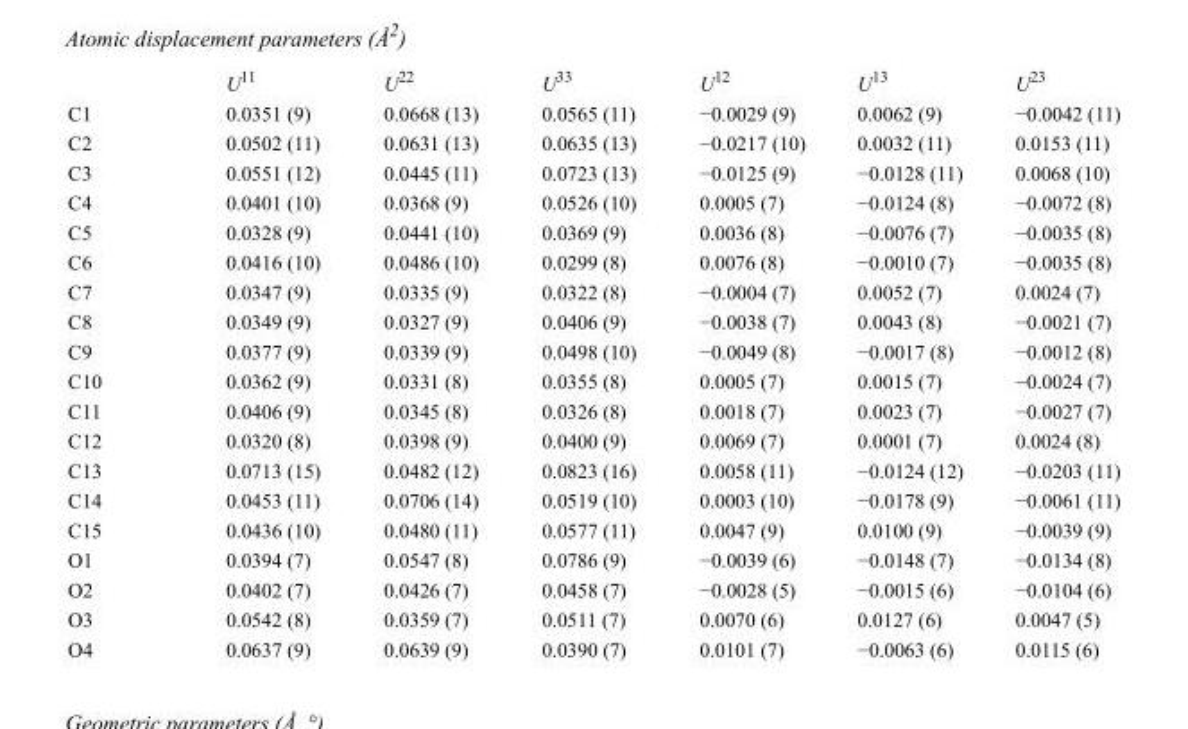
<table><thead><tr><td></td><td>U<sup>11</sup></td><td>U<sup>22</sup></td><td>U<sup>33</sup></td><td>U<sup>12</sup></td><td>U<sup>13</sup></td><td>U<sup>23</sup></td></tr></thead><tbody><tr><td>C1</td><td>0.0351 (9)</td><td>0.0668 (13)</td><td>0.0565 (11)</td><td>−0.0029 (9)</td><td>0.0062 (9)</td><td>−0.0042 (11)</td></tr><tr><td>C2</td><td>0.0502 (11)</td><td>0.0631 (13)</td><td>0.0635 (13)</td><td>−0.0217 (10)</td><td>0.0032 (11)</td><td>0.0153 (11)</td></tr><tr><td>C3</td><td>0.0551 (12)</td><td>0.0445 (11)</td><td>0.0723 (13)</td><td>−0.0125 (9)</td><td>−0.0128 (11)</td><td>0.0068 (10)</td></tr><tr><td>C4</td><td>0.0401 (10)</td><td>0.0368 (9)</td><td>0.0526 (10)</td><td>0.0005 (7)</td><td>−0.0124 (8)</td><td>−0.0072 (8)</td></tr><tr><td>C5</td><td>0.0328 (9)</td><td>0.0441 (10)</td><td>0.0369 (9)</td><td>0.0036 (8)</td><td>−0.0076 (7)</td><td>−0.0035 (8)</td></tr><tr><td>C6</td><td>0.0416 (10)</td><td>0.0486 (10)</td><td>0.0299 (8)</td><td>0.0076 (8)</td><td>−0.0010 (7)</td><td>−0.0035 (8)</td></tr><tr><td>C7</td><td>0.0347 (9)</td><td>0.0335 (9)</td><td>0.0322 (8)</td><td>−0.0004 (7)</td><td>0.0052 (7)</td><td>0.0024 (7)</td></tr><tr><td>C8</td><td>0.0349 (9)</td><td>0.0327 (9)</td><td>0.0406 (9)</td><td>−0.0038 (7)</td><td>0.0043 (8)</td><td>−0.0021 (7)</td></tr><tr><td>C9</td><td>0.0377 (9)</td><td>0.0339 (9)</td><td>0.0498 (10)</td><td>−0.0049 (8)</td><td>−0.0017 (8)</td><td>−0.0012 (8)</td></tr><tr><td>C10</td><td>0.0362 (9)</td><td>0.0331 (8)</td><td>0.0355 (8)</td><td>0.0005 (7)</td><td>0.0015 (7)</td><td>−0.0024 (7)</td></tr><tr><td>C11</td><td>0.0406 (9)</td><td>0.0345 (8)</td><td>0.0326 (8)</td><td>0.0018 (7)</td><td>0.0023 (7)</td><td>−0.0027 (7)</td></tr><tr><td>C12</td><td>0.0320 (8)</td><td>0.0398 (9)</td><td>0.0400 (9)</td><td>0.0069 (7)</td><td>0.0001 (7)</td><td>0.0024 (8)</td></tr><tr><td>C13</td><td>0.0713 (15)</td><td>0.0482 (12)</td><td>0.0823 (16)</td><td>0.0058 (11)</td><td>−0.0124 (12)</td><td>−0.0203 (11)</td></tr><tr><td>C14</td><td>0.0453 (11)</td><td>0.0706 (14)</td><td>0.0519 (10)</td><td>0.0003 (10)</td><td>−0.0178 (9)</td><td>−0.0061 (11)</td></tr><tr><td>C15</td><td>0.0436 (10)</td><td>0.0480 (11)</td><td>0.0577 (11)</td><td>0.0047 (9)</td><td>0.0100 (9)</td><td>−0.0039 (9)</td></tr><tr><td>O1</td><td>0.0394 (7)</td><td>0.0547 (8)</td><td>0.0786 (9)</td><td>−0.0039 (6)</td><td>−0.0148 (7)</td><td>−0.0134 (8)</td></tr><tr><td>O2</td><td>0.0402 (7)</td><td>0.0426 (7)</td><td>0.0458 (7)</td><td>−0.0028 (5)</td><td>−0.0015 (6)</td><td>−0.0104 (6)</td></tr><tr><td>O3</td><td>0.0542 (8)</td><td>0.0359 (7)</td><td>0.0511 (7)</td><td>0.0070 (6)</td><td>0.0127 (6)</td><td>0.0047 (5)</td></tr><tr><td>O4</td><td>0.0637 (9)</td><td>0.0639 (9)</td><td>0.0390 (7)</td><td>0.0101 (7)</td><td>−0.0063 (6)</td><td>0.0115 (6)</td></tr></tbody></table>